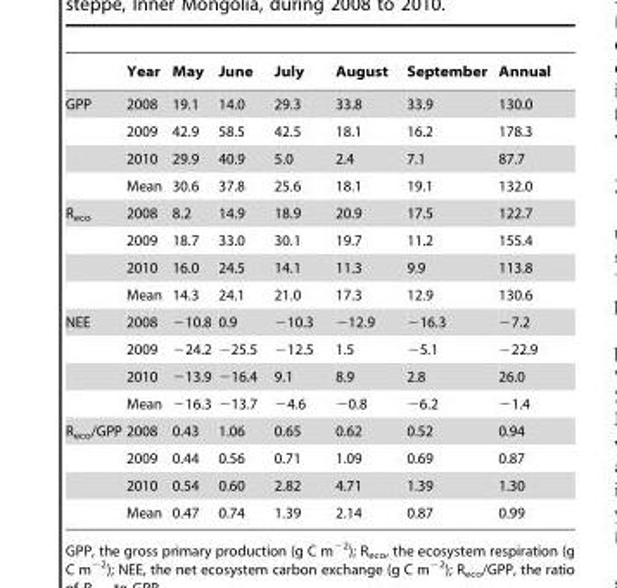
<table><thead><tr><td></td><td>Year</td><td>May</td><td>June</td><td>July</td><td>August</td><td>September</td><td>Annual</td></tr></thead><tbody><tr><td rowspan="4">GPP</td><td>2008</td><td>19.1</td><td>14.0</td><td>29.3</td><td>33.8</td><td>33.9</td><td>130.0</td></tr><tr><td>2009</td><td>42.9</td><td>58.5</td><td>42.5</td><td>18.1</td><td>16.2</td><td>178.3</td></tr><tr><td>2010</td><td>29.9</td><td>40.9</td><td>5.0</td><td>2.4</td><td>7.1</td><td>87.7</td></tr><tr><td>Mean</td><td>30.6</td><td>37.8</td><td>25.6</td><td>18.1</td><td>19.1</td><td>132.0</td></tr><tr><td rowspan="4">R<sub>eco</sub></td><td>2008</td><td>8.2</td><td>14.9</td><td>18.9</td><td>20.9</td><td>17.5</td><td>122.7</td></tr><tr><td>2009</td><td>18.7</td><td>33.0</td><td>30.1</td><td>19.7</td><td>11.2</td><td>155.4</td></tr><tr><td>2010</td><td>16.0</td><td>24.5</td><td>14.1</td><td>11.3</td><td>9.9</td><td>113.8</td></tr><tr><td>Mean</td><td>14.3</td><td>24.1</td><td>21.0</td><td>17.3</td><td>12.9</td><td>130.6</td></tr><tr><td rowspan="4">NEE</td><td>2008</td><td>−10.8</td><td>0.9</td><td>−10.3</td><td>−12.9</td><td>−16.3</td><td>−7.2</td></tr><tr><td>2009</td><td>−24.2</td><td>−25.5</td><td>−12.5</td><td>1.5</td><td>−5.1</td><td>−22.9</td></tr><tr><td>2010</td><td>−13.9</td><td>−16.4</td><td>9.1</td><td>8.9</td><td>2.8</td><td>26.0</td></tr><tr><td>Mean</td><td>−16.3</td><td>−13.7</td><td>−4.6</td><td>−0.8</td><td>−6.2</td><td>−1.4</td></tr><tr><td rowspan="4">R<sub>eco</sub>/GPP</td><td>2008</td><td>0.43</td><td>1.06</td><td>0.65</td><td>0.62</td><td>0.52</td><td>0.94</td></tr><tr><td>2009</td><td>0.44</td><td>0.56</td><td>0.71</td><td>1.09</td><td>0.69</td><td>0.87</td></tr><tr><td>2010</td><td>0.54</td><td>0.60</td><td>2.82</td><td>4.71</td><td>1.39</td><td>1.30</td></tr><tr><td>Mean</td><td>0.47</td><td>0.74</td><td>1.39</td><td>2.14</td><td>0.87</td><td>0.99</td></tr></tbody></table>